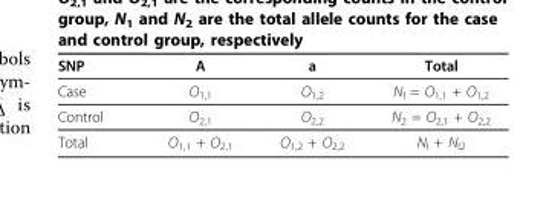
<table><thead><tr><td>SNP</td><td>A</td><td>a</td><td>Total</td></tr></thead><tbody><tr><td>Case</td><td>O<sub>1,1</sub></td><td>O<sub>1,2</sub></td><td>N<sub>l</sub> = O<sub>1,1</sub> + O<sub>1,2</sub></td></tr><tr><td>Control</td><td>O<sub>2,1</sub></td><td>O<sub>2,2</sub></td><td>N<sub>2</sub> = O<sub>2,1</sub> + O<sub>2,2</sub></td></tr><tr><td>Total</td><td>O<sub>1,1</sub> + O<sub>2,1</sub></td><td>O<sub>1,2</sub> + O<sub>2,2</sub></td><td>N<sub>l</sub> + N<sub>l2</sub></td></tr></tbody></table>